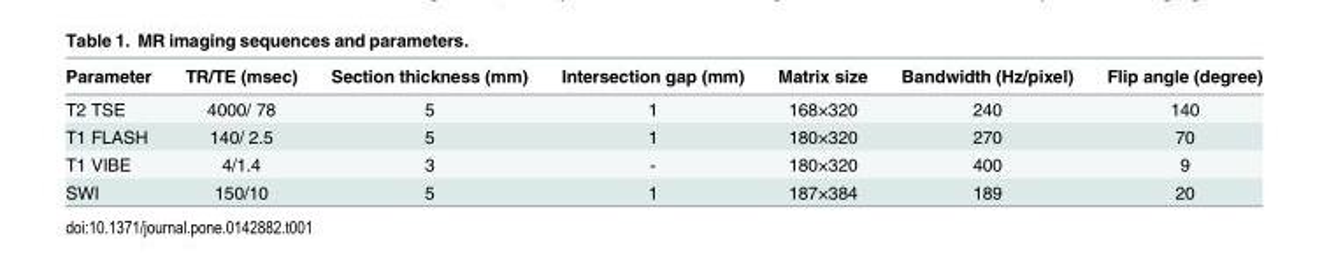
<table><thead><tr><td>Parameter</td><td>TR/TE (msec)</td><td>Section thickness (mm)</td><td>Intersection gap (mm)</td><td>Matrix size</td><td>Bandwidth (Hz/pixel)</td><td>Flip angle (degree)</td></tr></thead><tbody><tr><td>T2 TSE</td><td>4000/ 78</td><td>5</td><td>1</td><td>168×320</td><td>240</td><td>140</td></tr><tr><td>T1 FLASH</td><td>140/ 2.5</td><td>5</td><td>1</td><td>180×320</td><td>270</td><td>70</td></tr><tr><td>T1 VIBE</td><td>4/1.4</td><td>3</td><td>-</td><td>180×320</td><td>400</td><td>9</td></tr><tr><td>SWI</td><td>150/10</td><td>5</td><td>1</td><td>187×384</td><td>189</td><td>20</td></tr></tbody></table>